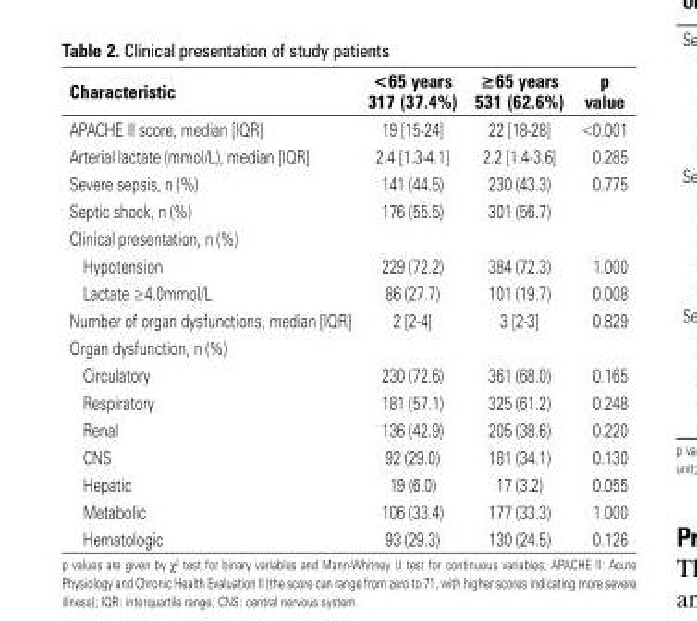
<table><thead><tr><td>Characteristic</td><td>&lt;65 years 317 (37.4%)</td><td>≥65 years 531 (62.6%)</td><td>p value</td></tr></thead><tbody><tr><td>APACHE II score, median [IQR]</td><td>19 [15-24]</td><td>22 [18-28]</td><td>&lt;0.001</td></tr><tr><td>Arterial lactate (mmol/L), median [IQR]</td><td>2.4 [1.3-4.1]</td><td>2.2 [1.4-3.6]</td><td>0.285</td></tr><tr><td>Severe sepsis, n (%)</td><td>141 (44.5)</td><td>230 (43.3)</td><td>0.775</td></tr><tr><td>Septic shock, n (%)</td><td>176 (55.5)</td><td>301 (56.7)</td><td></td></tr><tr><td colspan="4">Clinical presentation, n (%)</td></tr><tr><td>Hypotension</td><td>229 (72.2)</td><td>384 (72.3)</td><td>1.000</td></tr><tr><td>Lactate ≥4.0mmol/L</td><td>86 (27.7)</td><td>101 (19.7)</td><td>0.008</td></tr><tr><td>Number of organ dysfunctions, median [IQR]</td><td>2 [2-4]</td><td>3 [2-3]</td><td>0.829</td></tr><tr><td colspan="4">Organ dysfunction, n (%)</td></tr><tr><td>Circulatory</td><td>230 (72.6)</td><td>361 (68.0)</td><td>0.165</td></tr><tr><td>Respiratory</td><td>181 (57.1)</td><td>325 (61.2)</td><td>0.248</td></tr><tr><td>Renal</td><td>136 (42.9)</td><td>205 (38.6)</td><td>0.220</td></tr><tr><td>CNS</td><td>92 (29.0)</td><td>181 (34.1)</td><td>0.130</td></tr><tr><td>Hepatic</td><td>19 (6.0)</td><td>17 (3.2)</td><td>0.055</td></tr><tr><td>Metabolic</td><td>106 (33.4)</td><td>177 (33.3)</td><td>1.000</td></tr><tr><td>Hematologic</td><td>93 (29.3)</td><td>130 (24.5)</td><td>0.126</td></tr></tbody></table>